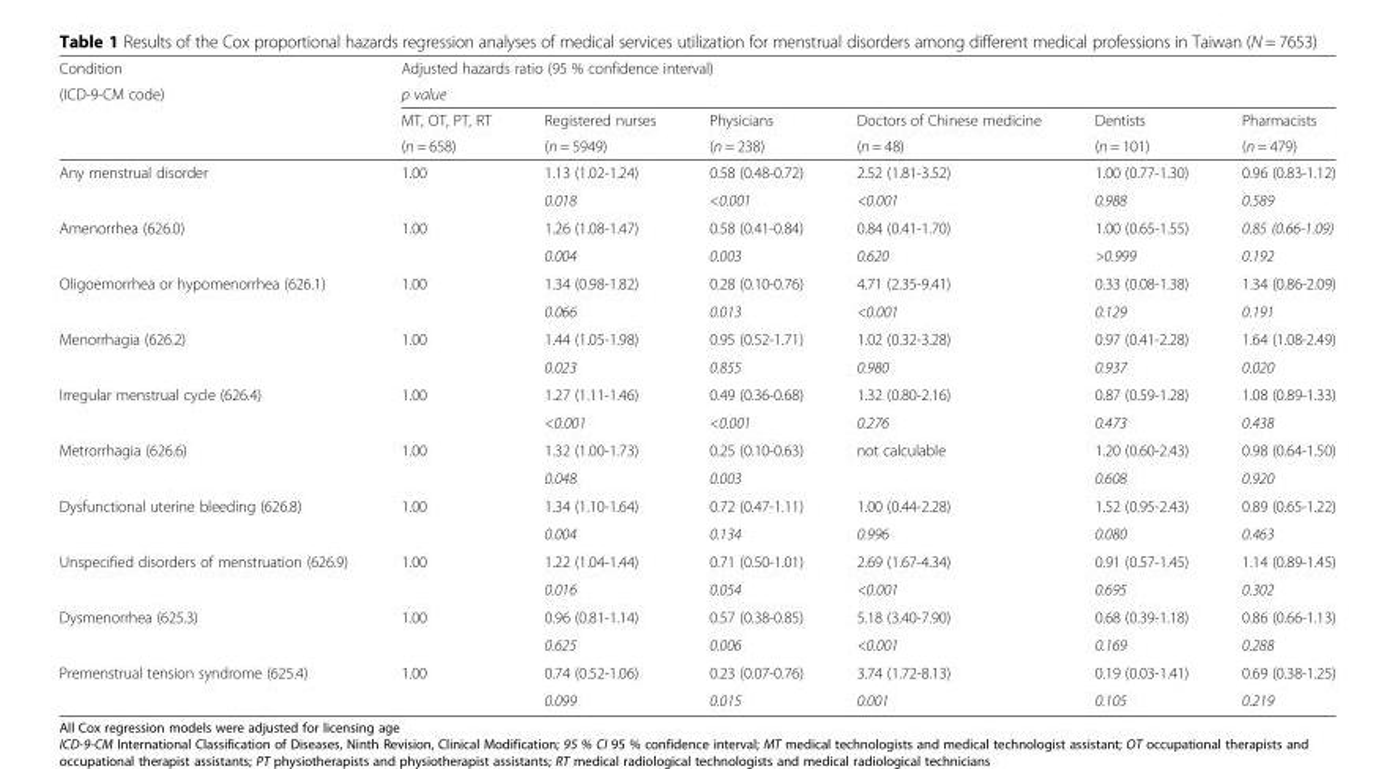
<table><thead><tr><td rowspan="4">Condition (ICD-9-CM code)</td><td rowspan="2" colspan="6">Adjusted hazards ratio (95 % confidence interval) p value</td></tr><tr></tr><tr><td rowspan="2">MT, OT, PT, RT (n = 658)</td><td rowspan="2">Registered nurses (n = 5949)</td><td rowspan="2">Physicians (n = 238)</td><td rowspan="2">Doctors of Chinese medicine (n = 48)</td><td rowspan="2">Dentists (n = 101)</td><td rowspan="2">Pharmacists (n = 479)</td></tr><tr></tr></thead><tbody><tr><td rowspan="2">Any menstrual disorder</td><td rowspan="2">1.00</td><td>1.13 (1.02-1.24)</td><td>0.58 (0.48-0.72)</td><td>2.52 (1.81-3.52)</td><td>1.00 (0.77-1.30)</td><td>0.96 (0.83-1.12)</td></tr><tr><td>0.018</td><td>&lt;0.001</td><td>&lt;0.001</td><td>0.988</td><td>0.589</td></tr><tr><td rowspan="2">Amenorrhea (626.0)</td><td rowspan="2">1.00</td><td>1.26 (1.08-1.47)</td><td>0.58 (0.41-0.84)</td><td>0.84 (0.41-1.70)</td><td>1.00 (0.65-1.55)</td><td>0.85 (0.66-1.09)</td></tr><tr><td>0.004</td><td>0.003</td><td>0.620</td><td>&gt;0.999</td><td>0.192</td></tr><tr><td rowspan="2">Oligoemorrhea or hypomenorrhea (626.1)</td><td rowspan="2">1.00</td><td>1.34 (0.98-1.82)</td><td>0.28 (0.10-0.76)</td><td>4.71 (2.35-9.41)</td><td>0.33 (0.08-1.38)</td><td>1.34 (0.86-2.09)</td></tr><tr><td>0.066</td><td>0.013</td><td>&lt;0.001</td><td>0.129</td><td>0.191</td></tr><tr><td rowspan="2">Menorrhagia (626.2)</td><td rowspan="2">1.00</td><td>1.44 (1.05-1.98)</td><td>0.95 (0.52-1.71)</td><td>1.02 (0.32-3.28)</td><td>0.97 (0.41-2.28)</td><td>1.64 (1.08-2.49)</td></tr><tr><td>0.023</td><td>0.855</td><td>0.980</td><td>0.937</td><td>0.020</td></tr><tr><td rowspan="2">Irregular menstrual cycle (626.4)</td><td rowspan="2">1.00</td><td>1.27 (1.11-1.46)</td><td>0.49 (0.36-0.68)</td><td>1.32 (0.80-2.16)</td><td>0.87 (0.59-1.28)</td><td>1.08 (0.89-1.33)</td></tr><tr><td>&lt;0.001</td><td>&lt;0.001</td><td>0.276</td><td>0.473</td><td>0.438</td></tr><tr><td rowspan="2">Metrorrhagia (626.6)</td><td rowspan="2">1.00</td><td>1.32 (1.00-1.73)</td><td>0.25 (0.10-0.63)</td><td rowspan="2">not calculable</td><td>1.20 (0.60-2.43)</td><td>0.98 (0.64-1.50)</td></tr><tr><td>0.048</td><td>0.003</td><td>0.608</td><td>0.920</td></tr><tr><td rowspan="2">Dysfunctional uterine bleeding (626.8)</td><td rowspan="2">1.00</td><td>1.34 (1.10-1.64)</td><td>0.72 (0.47-1.11)</td><td>1.00 (0.44-2.28)</td><td>1.52 (0.95-2.43)</td><td>0.89 (0.65-1.22)</td></tr><tr><td>0.004</td><td>0.134</td><td>0.996</td><td>0.080</td><td>0.463</td></tr><tr><td rowspan="2">Unspecified disorders of menstruation (626.9)</td><td rowspan="2">1.00</td><td>1.22 (1.04-1.44)</td><td>0.71 (0.50-1.01)</td><td>2.69 (1.67-4.34)</td><td>0.91 (0.57-1.45)</td><td>1.14 (0.89-1.45)</td></tr><tr><td>0.016</td><td>0.054</td><td>&lt;0.001</td><td>0.695</td><td>0.302</td></tr><tr><td rowspan="2">Dysmenorrhea (625.3)</td><td rowspan="2">1.00</td><td>0.96 (0.81-1.14)</td><td>0.57 (0.38-0.85)</td><td>5.18 (3.40-7.90)</td><td>0.68 (0.39-1.18)</td><td>0.86 (0.66-1.13)</td></tr><tr><td>0.625</td><td>0.006</td><td>&lt;0.001</td><td>0.169</td><td>0.288</td></tr><tr><td rowspan="2">Premenstrual tension syndrome (625.4)</td><td rowspan="2">1.00</td><td>0.74 (0.52-1.06)</td><td>0.23 (0.07-0.76)</td><td>3.74 (1.72-8.13)</td><td>0.19 (0.03-1.41)</td><td>0.69 (0.38-1.25)</td></tr><tr><td>0.099</td><td>0.015</td><td>0.001</td><td>0.105</td><td>0.219</td></tr></tbody></table>